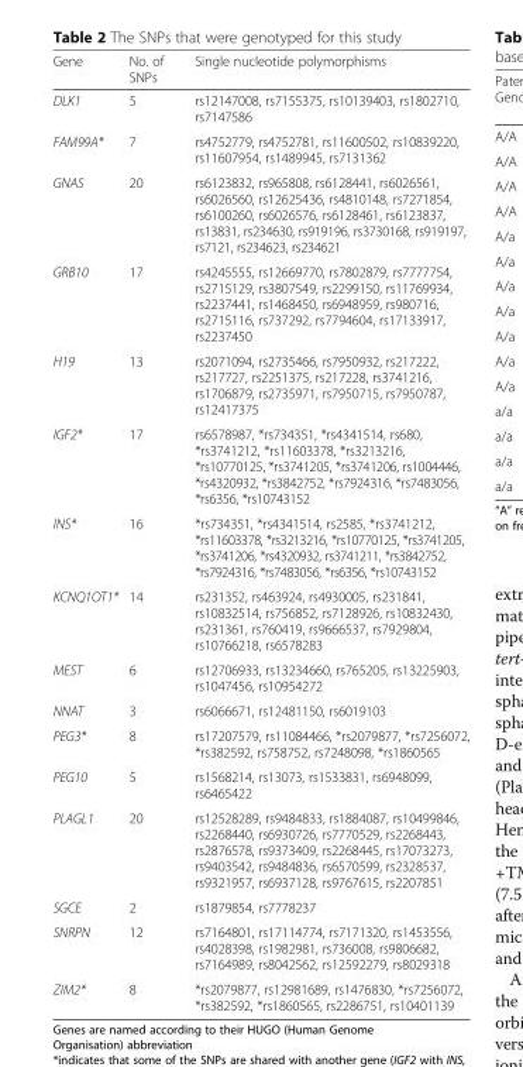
<table><thead><tr><td>Gene</td><td>No. of SNPs</td><td>Single nucleotide polymorphisms</td></tr></thead><tbody><tr><td>DLK1</td><td>5</td><td>rs12147008, rs7155375, rs10139403, rs1802710, rs7147586</td></tr><tr><td>FAM99A*</td><td>7</td><td>rs4752779, rs4752781, rs11600502, rs10839220, rs11607954, rs1489945, rs7131362</td></tr><tr><td>GNAS</td><td>20</td><td>rs6123832, rs965808, rs6128441, rs6026561, rs6026560, rs12625436, rs4810148, rs7271854, rs6100260, rs6026576, rs6128461, rs6123837, rs13831, rs234630, rs919196, rs3730168, rs919197, rs7121, rs234623, rs234621</td></tr><tr><td>GRB10</td><td>17</td><td>rs4245555, rs12669770, rs7802879, rs7777754, rs2715129, rs3807549, rs2299150, rs11769934, rs2237441, rs1468450, rs6948959, rs980716, rs2715116, rs737292, rs7794604, rs17133917, rs2237450</td></tr><tr><td>H19</td><td>13</td><td>rs2071094, rs2735466, rs7950932, rs217222, rs217727, rs2251375, rs217228, rs3741216, rs1706879, rs2735971, rs7950715, rs7950787, rs12417375</td></tr><tr><td>IGF2*</td><td>17</td><td>rs6578987, *rs734351, *rs4341514, rs680, *rs3741212, *rs11603378, *rs3213216, *rs10770125, *rs3741205, *rs3741206, rs1004446, *rs4320932, *rs3842752, *rs7924316, *rs7483056, *rs6356, *rs10743152</td></tr><tr><td>INS*</td><td>16</td><td>*rs734351, *rs4341514, rs2585, *rs3741212, *rs11603378, *rs3213216, *rs10770125, *rs3741205, *rs3741206, *rs4320932, rs3741211, *rs3842752, *rs7924316, *rs7483056, *rs6356, *rs10743152</td></tr><tr><td>KCNQ1OT1*</td><td>14</td><td>rs231352, rs463924, rs4930005, rs231841, rs10832514, rs756852, rs7128926, rs10832430, rs231361, rs760419, rs9666537, rs7929804, rs10766218, rs6578283</td></tr><tr><td>MEST</td><td>6</td><td>rs12706933, rs13234660, rs765205, rs13225903, rs1047456, rs10954272</td></tr><tr><td>NNAT</td><td>3</td><td>rs6066671, rs12481150, rs6019103</td></tr><tr><td>PEG3*</td><td>8</td><td>rs17207579, rs11084466, *rs2079877, *rs7256072, *rs382592, rs758752, rs7248098, *rs1860565</td></tr><tr><td>PEG10</td><td>5</td><td>rs1568214, rs13073, rs1533831, rs6948099, rs6465422</td></tr><tr><td>PLAGL1</td><td>20</td><td>rs12528289, rs9484833, rs1884087, rs10499846, rs2268440, rs6930726, rs7770529, rs2268443, rs2876578, rs9373409, rs2268445, rs17073273, rs9403542, rs9484836, rs6570599, rs2328537, rs9321957, rs6937128, rs9767615, rs2207851</td></tr><tr><td>SGCE</td><td>2</td><td>rs1879854, rs7778237</td></tr><tr><td>SNRPN</td><td>12</td><td>rs7164801, rs17114774, rs7171320, rs1453556, rs4028398, rs1982981, rs736008, rs9806682, rs7164989, rs8042562, rs12592279, rs8029318</td></tr><tr><td>ZIM2*</td><td>8</td><td>*rs2079877, rs12981689, rs1476830, *rs7256072, *rs382592, *rs1860565, rs2286751, rs10401139</td></tr></tbody></table>